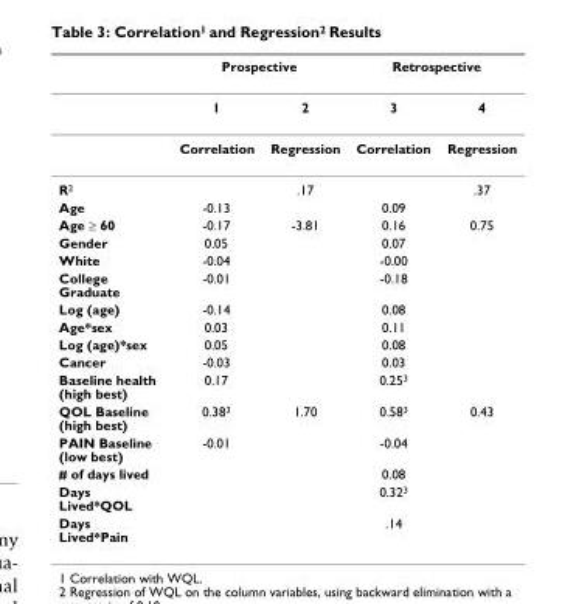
<table><thead><tr><td rowspan="2"></td><td colspan="2">Prospective</td><td colspan="2">Retrospective</td></tr><tr><td>1</td><td>2</td><td>3</td><td>4</td></tr></thead><tbody><tr><td></td><td>Correlation</td><td>Regression</td><td>Correlation</td><td>Regression</td></tr><tr><td>R<sup>2</sup></td><td></td><td>.17</td><td></td><td>.37</td></tr><tr><td>Age</td><td>-0.13</td><td></td><td>0.09</td><td></td></tr><tr><td>Age ≥ 60</td><td>-0.17</td><td>-3.81</td><td>0.16</td><td>0.75</td></tr><tr><td>Gender</td><td>0.05</td><td></td><td>0.07</td><td></td></tr><tr><td>White</td><td>-0.04</td><td></td><td>-0.00</td><td></td></tr><tr><td>College Graduate</td><td>-0.01</td><td></td><td>-0.18</td><td></td></tr><tr><td>Log (age)</td><td>-0.14</td><td></td><td>0.08</td><td></td></tr><tr><td>Age*sex</td><td>0.03</td><td></td><td>0.11</td><td></td></tr><tr><td>Log (age)*sex</td><td>0.05</td><td></td><td>0.08</td><td></td></tr><tr><td>Cancer</td><td>-0.03</td><td></td><td>0.03</td><td></td></tr><tr><td>Baseline health (high best)</td><td>0.17</td><td></td><td>0.25<sup>3</sup></td><td></td></tr><tr><td>QOL Baseline (high best)</td><td>0.38<sup>3</sup></td><td>1.70</td><td>0.58<sup>3</sup></td><td>0.43</td></tr><tr><td>PAIN Baseline (low best)</td><td>-0.01</td><td></td><td>-0.04</td><td></td></tr><tr><td># of days lived</td><td></td><td></td><td>0.08</td><td></td></tr><tr><td>Days Lived*QOL</td><td></td><td></td><td>0.32<sup>3</sup></td><td></td></tr><tr><td>Days Lived*Pain</td><td></td><td></td><td>.14</td><td></td></tr></tbody></table>